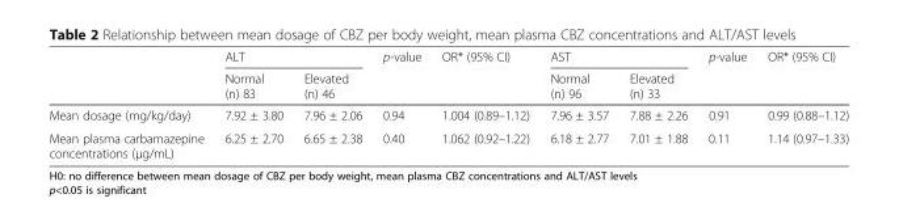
<table><thead><tr><td rowspan="2"></td><td colspan="2">ALT</td><td rowspan="2">p-value</td><td rowspan="2">OR* (95% CI)</td><td colspan="2">AST</td><td rowspan="2">p-value</td><td rowspan="2">OR* (95% CI)</td></tr><tr><td>Normal (n) 83</td><td>Elevated (n) 46</td><td>Normal (n) 96</td><td>Elevated (n) 33</td></tr></thead><tbody><tr><td>Mean dosage (mg/kg/day)</td><td>7.92 ± 3.80</td><td>7.96 ± 2.06</td><td>0.94</td><td>1.004 (0.89–1.12)</td><td>7.96 ± 3.57</td><td>7.88 ± 2.26</td><td>0.91</td><td>0.99 (0.88–1.12)</td></tr><tr><td>Mean plasma carbamazepine concentrations (μg/mL)</td><td>6.25 ± 2.70</td><td>6.65 ± 2.38</td><td>0.40</td><td>1.062 (0.92–1.22)</td><td>6.18 ± 2.77</td><td>7.01 ± 1.88</td><td>0.11</td><td>1.14 (0.97–1.33)</td></tr></tbody></table>